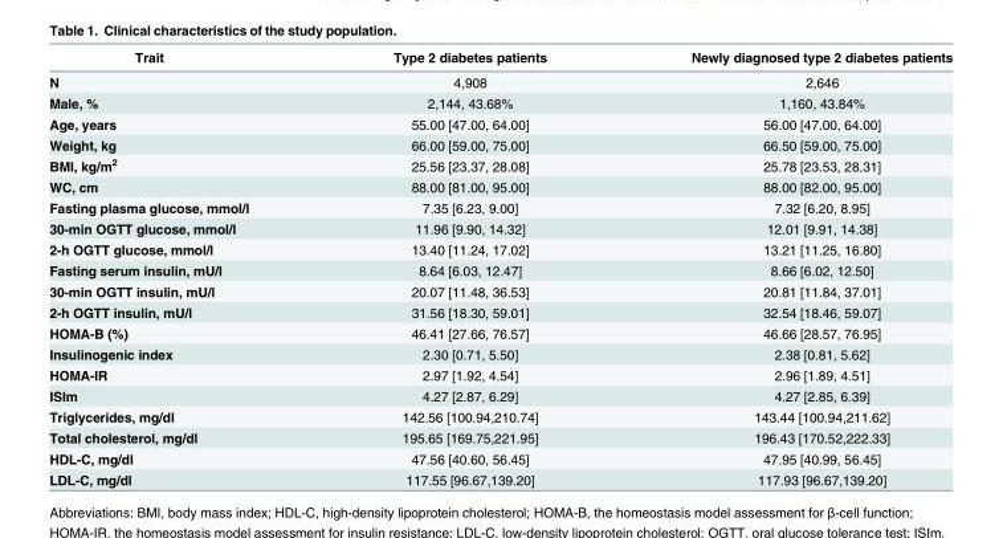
<table><thead><tr><td>Trait</td><td>Type 2 diabetes patients</td><td>Newly diagnosed type 2 diabetes patients</td></tr></thead><tbody><tr><td>N</td><td>4,908</td><td>2,646</td></tr><tr><td>Male, %</td><td>2,144, 43.68%</td><td>1,160, 43.84%</td></tr><tr><td>Age, years</td><td>55.00 [47.00, 64.00]</td><td>56.00 [47.00, 64.00]</td></tr><tr><td>Weight, kg</td><td>66.00 [59.00, 75.00]</td><td>66.50 [59.00, 75.00]</td></tr><tr><td>BMI, kg/m<sup>2</sup></td><td>25.56 [23.37, 28.08]</td><td>25.78 [23.53, 28.31]</td></tr><tr><td>WC, cm</td><td>88.00 [81.00, 95.00]</td><td>88.00 [82.00, 95.00]</td></tr><tr><td>Fasting plasma glucose, mmol/l</td><td>7.35 [6.23, 9.00]</td><td>7.32 [6.20, 8.95]</td></tr><tr><td>30-min OGTT glucose, mmol/l</td><td>11.96 [9.90, 14.32]</td><td>12.01 [9.91, 14.38]</td></tr><tr><td>2-h OGTT glucose, mmol/l</td><td>13.40 [11.24, 17.02]</td><td>13.21 [11.25, 16.80]</td></tr><tr><td>Fasting serum insulin, mU/l</td><td>8.64 [6.03, 12.47]</td><td>8.66 [6.02, 12.50]</td></tr><tr><td>30-min OGTT insulin, mU/l</td><td>20.07 [11.48, 36.53]</td><td>20.81 [11.84, 37.01]</td></tr><tr><td>2-h OGTT insulin, mU/l</td><td>31.56 [18.30, 59.01]</td><td>32.54 [18.46, 59.07]</td></tr><tr><td>HOMA-B (%)</td><td>46.41 [27.66, 76.57]</td><td>46.66 [28.57, 76.95]</td></tr><tr><td>Insulinogenic index</td><td>2.30 [0.71, 5.50]</td><td>2.38 [0.81, 5.62]</td></tr><tr><td>HOMA-IR</td><td>2.97 [1.92, 4.54]</td><td>2.96 [1.89, 4.51]</td></tr><tr><td>ISIm</td><td>4.27 [2.87, 6.29]</td><td>4.27 [2.85, 6.39]</td></tr><tr><td>Triglycerides, mg/dl</td><td>142.56 [100.94,210.74]</td><td>143.44 [100.94,211.62]</td></tr><tr><td>Total cholesterol, mg/dl</td><td>195.65 [169.75,221.95]</td><td>196.43 [170.52,222.33]</td></tr><tr><td>HDL-C, mg/dl</td><td>47.56 [40.60, 56.45]</td><td>47.95 [40.99, 56.45]</td></tr><tr><td>LDL-C, mg/dl</td><td>117.55 [96.67,139.20]</td><td>117.93 [96.67,139.20]</td></tr></tbody></table>